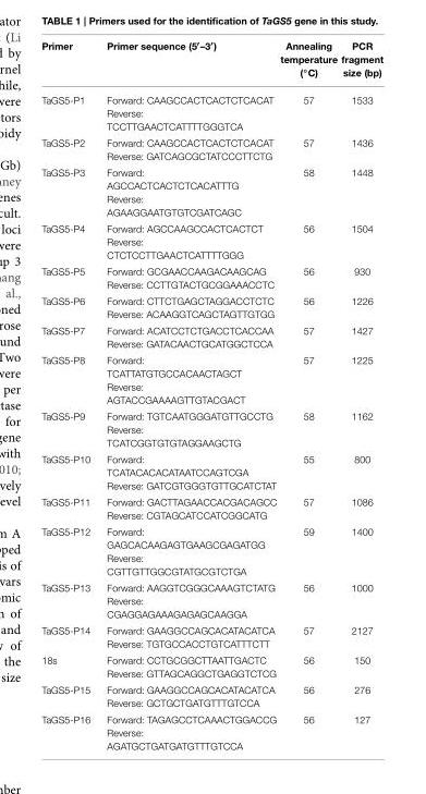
<table><thead><tr><td>Primer</td><td>Primer sequence (5′–3′)</td><td>Annealing temperature (◦C)</td><td>PCR fragment size (bp)</td></tr></thead><tbody><tr><td>TaGS5-P1</td><td>Forward: CAAGCCACTCACTCTCACAT Reverse: TCCTTGAACTCATTTTGGGTCA</td><td>57</td><td>1533</td></tr><tr><td>TaGS5-P2</td><td>Forward: CAAGCCACTCACTCTCACAT Reverse: GATCAGCGCTATCCCTTCTG</td><td>57</td><td>1436</td></tr><tr><td>TaGS5-P3</td><td>Forward: AGCCACTCACTCTCACATTTG Reverse: AGAAGGAATGTGTCGATCAGC</td><td>58</td><td>1448</td></tr><tr><td>TaGS5-P4</td><td>Forward: AGCCAAGCCACTCACTCT Reverse: CTCTCCTTGAACTCATTTTGGG</td><td>56</td><td>1504</td></tr><tr><td>TaGS5-P5</td><td>Forward: GCGAACCAAGACAAGCAG Reverse: CCTTGTACTGCGGAAACCTC</td><td>56</td><td>930</td></tr><tr><td>TaGS5-P6</td><td>Forward: CTTCTGAGCTAGGACCTCTC Reverse: ACAAGGTCAGCTAGTTGTGG</td><td>56</td><td>1226</td></tr><tr><td>TaGS5-P7</td><td>Forward: ACATCCTCTGACCTCACCAA Reverse: GATACAACTGCATGGCTCCA</td><td>57</td><td>1427</td></tr><tr><td>TaGS5-P8</td><td>Forward: TCATTATGTGCCACAACTAGCT Reverse: AGTACCGAAAAGTTGTACGACT</td><td>57</td><td>1225</td></tr><tr><td>TaGS5-P9</td><td>Forward: TGTCAATGGGATGTTGCCTG Reverse: TCATCGGTGTGTAGGAAGCTG</td><td>58</td><td>1162</td></tr><tr><td>TaGS5-P10</td><td>Forward: TCATACACACATAATCCAGTCGA Reverse: GATCGTGGGTGTTGCATCTAT</td><td>55</td><td>800</td></tr><tr><td>TaGS5-P11</td><td>Forward: GACTTAGAACCACGACAGCC Reverse: CGTAGCATCCATCGGCATG</td><td>57</td><td>1086</td></tr><tr><td>TaGS5-P12</td><td>Forward: GAGCACAAGAGTGAAGCGAGATGG Reverse: CGTTGTTGGCGTATGCGTCTGA</td><td>59</td><td>1400</td></tr><tr><td>TaGS5-P13</td><td>Forward: AAGGTCGGGCAAAGTCTATG Reverse: CGAGGAGAAAGAGAGCAAGGA</td><td>56</td><td>1000</td></tr><tr><td>TaGS5-P14</td><td>Forward: GAAGGCCAGCACATACATCA Reverse: TGTGCCACCTGTCATTTCTT</td><td>57</td><td>2127</td></tr><tr><td>18s</td><td>Forward: CCTGCGGCTTAATTGACTC Reverse: GTTAGCAGGCTGAGGTCTCG</td><td>56</td><td>150</td></tr><tr><td>TaGS5-P15</td><td>Forward: GAAGGCCAGCACATACATCA Reverse: GCTGCTGATGTTTGTCCA</td><td>56</td><td>276</td></tr><tr><td>TaGS5-P16</td><td>Forward: TAGAGCCTCAAACTGGACCG Reverse: AGATGCTGATGATGTTTGTCCA</td><td>56</td><td>127</td></tr></tbody></table>